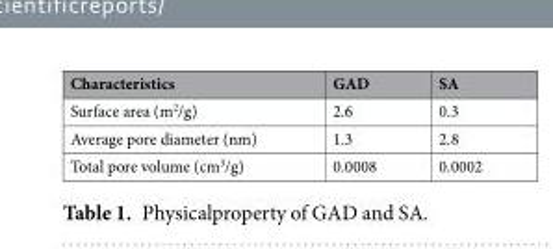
<table><thead><tr><td>Characteristics</td><td>GAD</td><td>SA</td></tr></thead><tbody><tr><td>Surface area (m<sup>2</sup>/g)</td><td>2.6</td><td>0.3</td></tr><tr><td>Average pore diameter (nm)</td><td>1.3</td><td>2.8</td></tr><tr><td>Total pore volume (cm<sup>3</sup>/g)</td><td>0.0008</td><td>0.0002</td></tr></tbody></table>